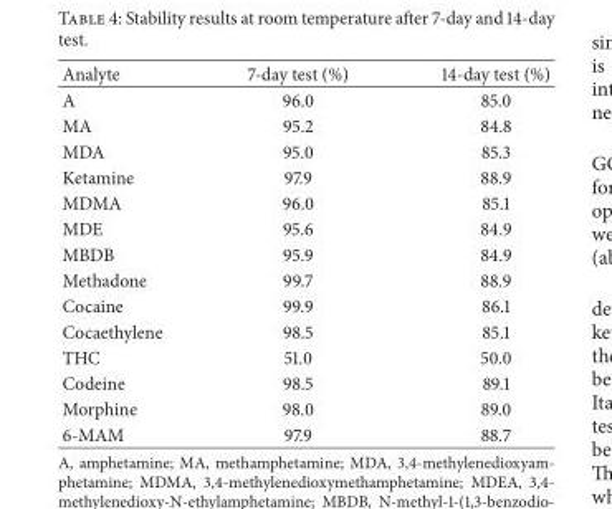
<table><thead><tr><td>Analyte</td><td>7-day test (%)</td><td>14-day test (%)</td></tr></thead><tbody><tr><td>A</td><td>96.0</td><td>85.0</td></tr><tr><td>MA</td><td>95.2</td><td>84.8</td></tr><tr><td>MDA</td><td>95.0</td><td>85.3</td></tr><tr><td>Ketamine</td><td>97.9</td><td>88.9</td></tr><tr><td>MDMA</td><td>96.0</td><td>85.1</td></tr><tr><td>MDE</td><td>95.6</td><td>84.9</td></tr><tr><td>MBDB</td><td>95.9</td><td>84.9</td></tr><tr><td>Methadone</td><td>99.7</td><td>88.9</td></tr><tr><td>Cocaine</td><td>99.9</td><td>86.1</td></tr><tr><td>Cocaethylene</td><td>98.5</td><td>85.1</td></tr><tr><td>THC</td><td>51.0</td><td>50.0</td></tr><tr><td>Codeine</td><td>98.5</td><td>89.1</td></tr><tr><td>Morphine</td><td>98.0</td><td>89.0</td></tr><tr><td>6-MAM</td><td>97.9</td><td>88.7</td></tr></tbody></table>